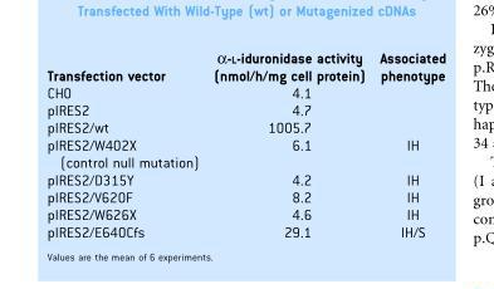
<table><thead><tr><td>Transfection vector</td><td>α-L-iduronidase activity (nmol/h/mg cell protein)</td><td>Associated phenotype</td></tr></thead><tbody><tr><td>CHO</td><td>4.1</td><td></td></tr><tr><td>pIRES2</td><td>4.7</td><td></td></tr><tr><td>pIRES2/wt</td><td>1005.7</td><td></td></tr><tr><td>pIRES2/W402X (control null mutation)</td><td>6.1</td><td>IH</td></tr><tr><td>pIRES2/D315Y</td><td>4.2</td><td>IH</td></tr><tr><td>pIRES2/V620F</td><td>8.2</td><td>IH</td></tr><tr><td>pIRES2/W626X</td><td>4.6</td><td>IH</td></tr><tr><td>pIRES2/E640Cfs</td><td>29.1</td><td>IH/S</td></tr></tbody></table>